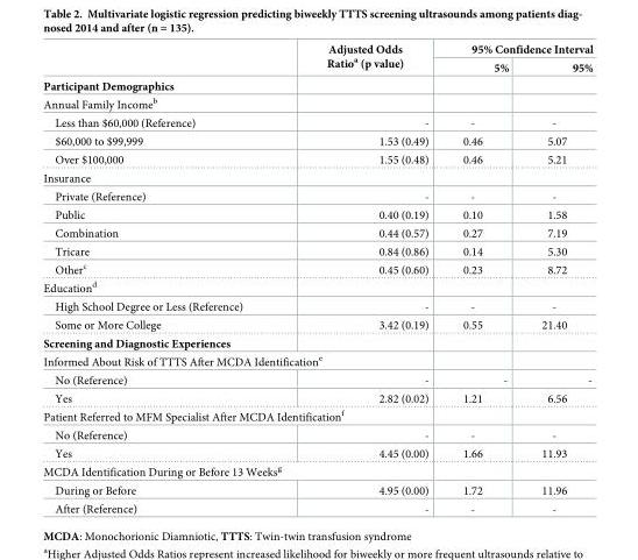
<table><thead><tr><td rowspan="2"></td><td rowspan="2">Adjusted Odds Ratio<sup>a</sup> (p value)</td><td colspan="2">95% Confidence Interval</td></tr><tr><td>5%</td><td>95%</td></tr></thead><tbody><tr><td colspan="4">Participant Demographics</td></tr><tr><td colspan="4">Annual Family Income<sup>b</sup></td></tr><tr><td>Less than $60,000 (Reference)</td><td>-</td><td>-</td><td>-</td></tr><tr><td>$60,000 to $99,999</td><td>1.53 (0.49)</td><td>0.46</td><td>5.07</td></tr><tr><td>Over $100,000</td><td>1.55 (0.48)</td><td>0.46</td><td>5.21</td></tr><tr><td colspan="4">Insurance</td></tr><tr><td>Private (Reference)</td><td>-</td><td>-</td><td>-</td></tr><tr><td>Public</td><td>0.40 (0.19)</td><td>0.10</td><td>1.58</td></tr><tr><td>Combination</td><td>0.44 (0.57)</td><td>0.27</td><td>7.19</td></tr><tr><td>Tricare</td><td>0.84 (0.86)</td><td>0.14</td><td>5.30</td></tr><tr><td>Other<sup>c</sup></td><td>0.45 (0.60)</td><td>0.23</td><td>8.72</td></tr><tr><td colspan="4">Education<sup>d</sup></td></tr><tr><td>High School Degree or Less (Reference)</td><td>-</td><td>-</td><td>-</td></tr><tr><td>Some or More College</td><td>3.42 (0.19)</td><td>0.55</td><td>21.40</td></tr><tr><td colspan="4">Screening and Diagnostic Experiences</td></tr><tr><td colspan="4">Informed About Risk of TTTS After MCDA Identification<sup>e</sup></td></tr><tr><td>No (Reference)</td><td>-</td><td>-</td><td>-</td></tr><tr><td>Yes</td><td>2.82 (0.02)</td><td>1.21</td><td>6.56</td></tr><tr><td colspan="4">Patient Referred to MFM Specialist After MCDA Identification<sup>f</sup></td></tr><tr><td>No (Reference)</td><td>-</td><td>-</td><td>-</td></tr><tr><td>Yes</td><td>4.45 (0.00)</td><td>1.66</td><td>11.93</td></tr><tr><td colspan="4">MCDA Identification During or Before 13 Weeks<sup>g</sup></td></tr><tr><td>During or Before</td><td>4.95 (0.00)</td><td>1.72</td><td>11.96</td></tr><tr><td>After (Reference)</td><td>-</td><td>-</td><td>-</td></tr></tbody></table>